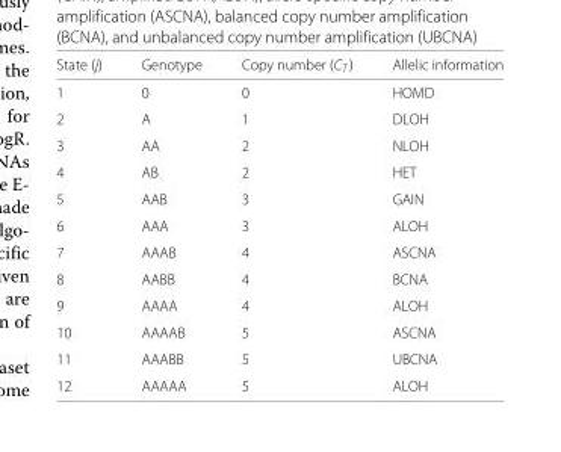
<table><thead><tr><td>State (j)</td><td>Genotype</td><td>Copy number (C<sub>T</sub>)</td><td>Allelic information</td></tr></thead><tbody><tr><td>1</td><td>0</td><td>0</td><td>HOMD</td></tr><tr><td>2</td><td>A</td><td>1</td><td>DLOH</td></tr><tr><td>3</td><td>AA</td><td>2</td><td>NLOH</td></tr><tr><td>4</td><td>AB</td><td>2</td><td>HET</td></tr><tr><td>5</td><td>AAB</td><td>3</td><td>GAIN</td></tr><tr><td>6</td><td>AAA</td><td>3</td><td>ALOH</td></tr><tr><td>7</td><td>AAAB</td><td>4</td><td>ASCNA</td></tr><tr><td>8</td><td>AABB</td><td>4</td><td>BCNA</td></tr><tr><td>9</td><td>AAAA</td><td>4</td><td>ALOH</td></tr><tr><td>10</td><td>AAAAB</td><td>5</td><td>ASCNA</td></tr><tr><td>11</td><td>AAABB</td><td>5</td><td>UBCNA</td></tr><tr><td>12</td><td>AAAAA</td><td>5</td><td>ALOH</td></tr></tbody></table>